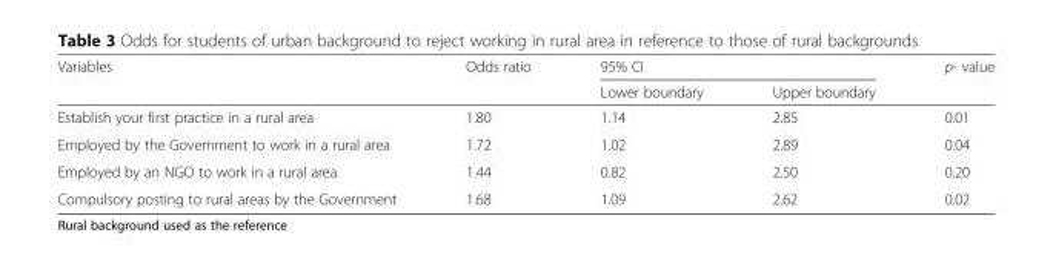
<table><thead><tr><td rowspan="2">Variables</td><td rowspan="2">Odds ratio</td><td colspan="2">95% CI</td><td rowspan="2">p- value</td></tr><tr><td>Lower boundary</td><td>Upper boundary</td></tr></thead><tbody><tr><td>Establish your first practice in a rural area</td><td>1.80</td><td>1.14</td><td>2.85</td><td>0.01</td></tr><tr><td>Employed by the Government to work in a rural area</td><td>1.72</td><td>1.02</td><td>2.89</td><td>0.04</td></tr><tr><td>Employed by an NGO to work in a rural area</td><td>1.44</td><td>0.82</td><td>2.50</td><td>0.20</td></tr><tr><td>Compulsory posting to rural areas by the Government</td><td>1.68</td><td>1.09</td><td>2.62</td><td>0.02</td></tr></tbody></table>